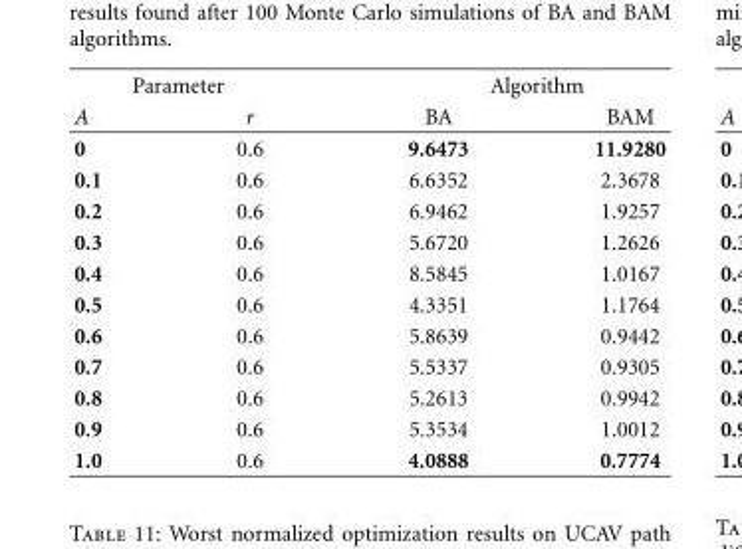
<table><thead><tr><td colspan="2">Parameter</td><td colspan="2">Algorithm</td></tr><tr><td>A</td><td>r</td><td>BA</td><td>BAM</td></tr></thead><tbody><tr><td>0</td><td>0.6</td><td>9.6473</td><td>11.9280</td></tr><tr><td>0.1</td><td>0.6</td><td>6.6352</td><td>2.3678</td></tr><tr><td>0.2</td><td>0.6</td><td>6.9462</td><td>1.9257</td></tr><tr><td>0.3</td><td>0.6</td><td>5.6720</td><td>1.2626</td></tr><tr><td>0.4</td><td>0.6</td><td>8.5845</td><td>1.0167</td></tr><tr><td>0.5</td><td>0.6</td><td>4.3351</td><td>1.1764</td></tr><tr><td>0.6</td><td>0.6</td><td>5.8639</td><td>0.9442</td></tr><tr><td>0.7</td><td>0.6</td><td>5.5337</td><td>0.9305</td></tr><tr><td>0.8</td><td>0.6</td><td>5.2613</td><td>0.9942</td></tr><tr><td>0.9</td><td>0.6</td><td>5.3534</td><td>1.0012</td></tr><tr><td>1.0</td><td>0.6</td><td>4.0888</td><td>0.7774</td></tr></tbody></table>